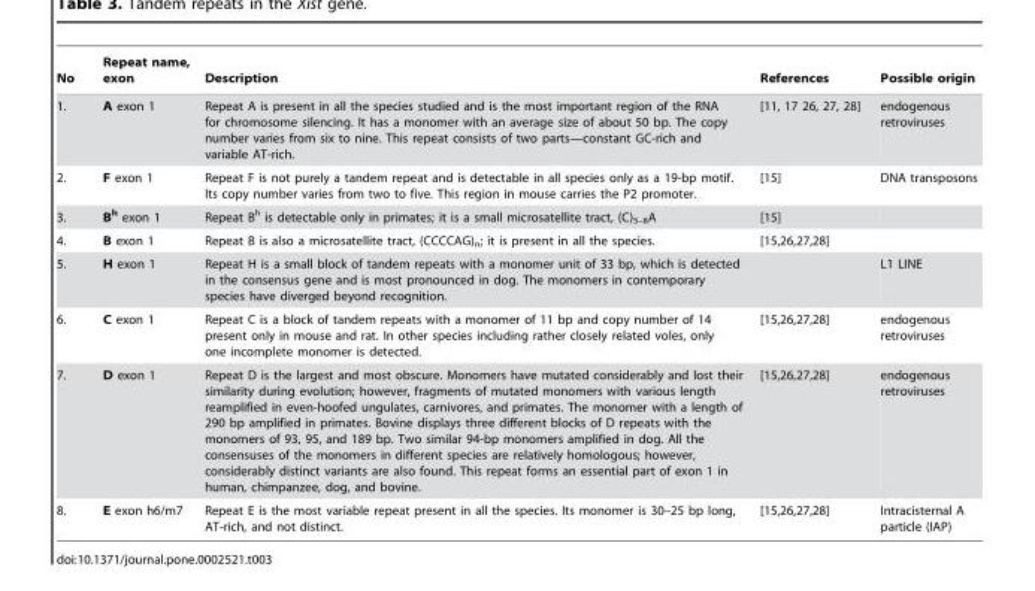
<table><thead><tr><td>No</td><td>Repeat name, exon</td><td>Description</td><td>References</td><td>Possible origin</td></tr></thead><tbody><tr><td>1.</td><td>A exon 1</td><td>Repeat A is present in all the species studied and is the most important region of the RNA for chromosome silencing. It has a monomer with an average size of about 50 bp. The copy number varies from six to nine. This repeat consists of two parts—constant GC-rich and variable AT-rich.</td><td>[11, 17 26, 27, 28]</td><td>endogenous retroviruses</td></tr><tr><td>2.</td><td>F exon 1</td><td>Repeat F is not purely a tandem repeat and is detectable in all species only as a 19-bp motif. Its copy number varies from two to five. This region in mouse carries the P2 promoter.</td><td>[15]</td><td>DNA transposons</td></tr><tr><td>3.</td><td>B<sup>h</sup> exon 1</td><td>Repeat B<sup>h</sup> is detectable only in primates; it is a small microsatellite tract, (C)<sub>5–8</sub>A</td><td>[15]</td><td></td></tr><tr><td>4.</td><td>B exon 1</td><td>Repeat B is also a microsatellite tract, (CCCCAG)<sub>n</sub>; it is present in all the species.</td><td>[15,26,27,28]</td><td></td></tr><tr><td>5.</td><td>H exon 1</td><td>Repeat H is a small block of tandem repeats with a monomer unit of 33 bp, which is detected in the consensus gene and is most pronounced in dog. The monomers in contemporary species have diverged beyond recognition.</td><td></td><td>L1 LINE</td></tr><tr><td>6.</td><td>C exon 1</td><td>Repeat C is a block of tandem repeats with a monomer of 11 bp and copy number of 14 present only in mouse and rat. In other species including rather closely related voles, only one incomplete monomer is detected.</td><td>[15,26,27,28]</td><td>endogenous retroviruses</td></tr><tr><td>7.</td><td>D exon 1</td><td>Repeat D is the largest and most obscure. Monomers have mutated considerably and lost their similarity during evolution; however, fragments of mutated monomers with various length reamplified in even-hoofed ungulates, carnivores, and primates. The monomer with a length of 290 bp amplified in primates. Bovine displays three different blocks of D repeats with the monomers of 93, 95, and 189 bp. Two similar 94-bp monomers amplified in dog. All the consensuses of the monomers in different species are relatively homologous; however, considerably distinct variants are also found. This repeat forms an essential part of exon 1 in human, chimpanzee, dog, and bovine.</td><td>[15,26,27,28]</td><td>endogenous retroviruses</td></tr><tr><td>8.</td><td>E exon h6/m7</td><td>Repeat E is the most variable repeat present in all the species. Its monomer is 30–25 bp long, AT-rich, and not distinct.</td><td>[15,26,27,28]</td><td>Intracisternal A particle (IAP)</td></tr></tbody></table>